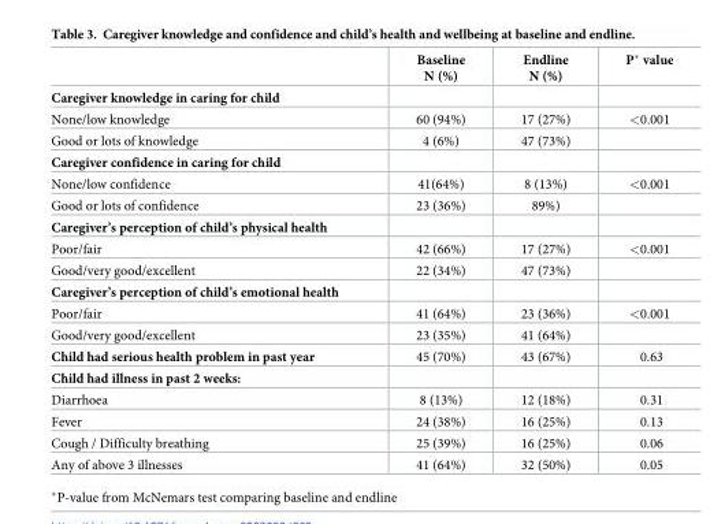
<table><thead><tr><td></td><td>Baseline N (%)</td><td>Endline N (%)</td><td>P* value</td></tr></thead><tbody><tr><td colspan="4">Caregiver knowledge in caring for child</td></tr><tr><td>None/low knowledge</td><td>60 (94%)</td><td>17 (27%)</td><td>&lt;0.001</td></tr><tr><td>Good or lots of knowledge</td><td>4 (6%)</td><td>47 (73%)</td><td></td></tr><tr><td colspan="4">Caregiver confidence in caring for child</td></tr><tr><td>None/low confidence</td><td>41(64%)</td><td>8 (13%)</td><td>&lt;0.001</td></tr><tr><td>Good or lots of confidence</td><td>23 (36%)</td><td>89%)</td><td></td></tr><tr><td colspan="4">Caregiver’s perception of child’s physical health</td></tr><tr><td>Poor/fair</td><td>42 (66%)</td><td>17 (27%)</td><td>&lt;0.001</td></tr><tr><td>Good/very good/excellent</td><td>22 (34%)</td><td>47 (73%)</td><td></td></tr><tr><td colspan="4">Caregiver’s perception of child’s emotional health</td></tr><tr><td>Poor/fair</td><td>41 (64%)</td><td>23 (36%)</td><td>&lt;0.001</td></tr><tr><td>Good/very good/excellent</td><td>23 (35%)</td><td>41 (64%)</td><td></td></tr><tr><td>Child had serious health problem in past year</td><td>45 (70%)</td><td>43 (67%)</td><td>0.63</td></tr><tr><td colspan="4">Child had illness in past 2 weeks:</td></tr><tr><td>Diarrhoea</td><td>8 (13%)</td><td>12 (18%)</td><td>0.31</td></tr><tr><td>Fever</td><td>24 (38%)</td><td>16 (25%)</td><td>0.13</td></tr><tr><td>Cough / Difficulty breathing</td><td>25 (39%)</td><td>16 (25%)</td><td>0.06</td></tr><tr><td>Any of above 3 illnesses</td><td>41 (64%)</td><td>32 (50%)</td><td>0.05</td></tr></tbody></table>